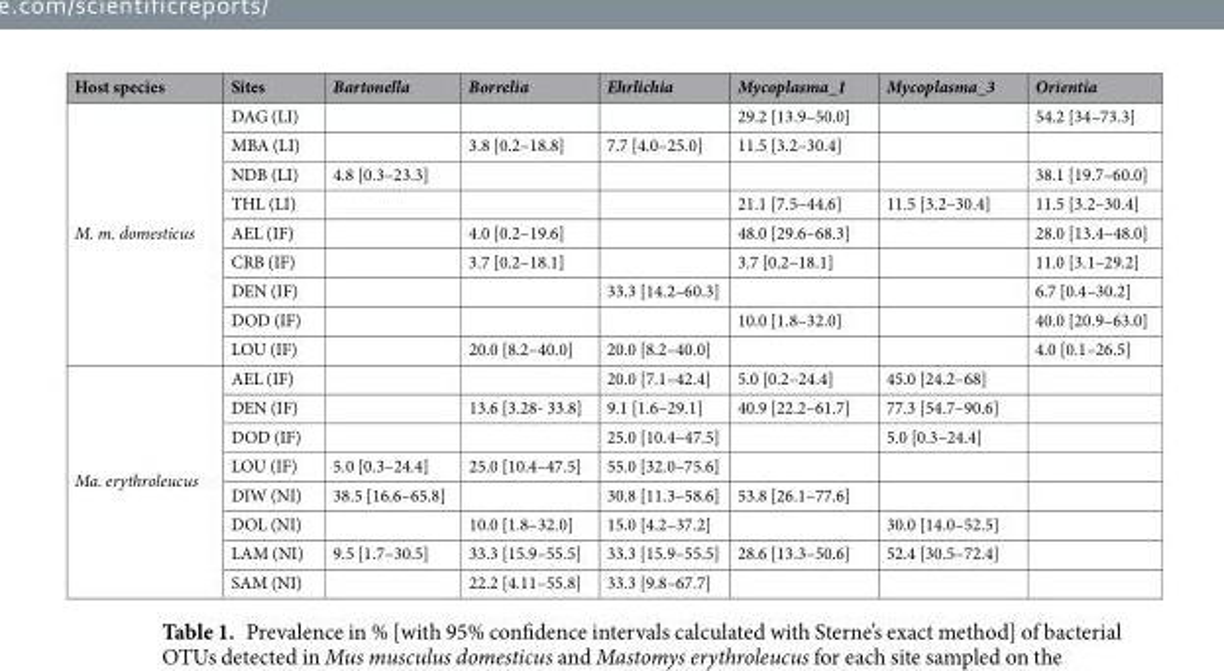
<table><thead><tr><td>Host species</td><td>Sites</td><td>Bartonella</td><td>Borrelia</td><td>Ehrlichia</td><td>Mycoplasma_1</td><td>Mycoplasma_3</td><td>Orientia</td></tr></thead><tbody><tr><td rowspan="9">M. m. domesticus</td><td>DAG (LI)</td><td></td><td></td><td></td><td>29.2 [13.9–50.0]</td><td></td><td>54.2 [34–73.3]</td></tr><tr><td>MBA (LI)</td><td></td><td>3.8 [0.2–18.8]</td><td>7.7 [4.0–25.0]</td><td>11.5 [3.2–30.4]</td><td></td><td></td></tr><tr><td>NDB (LI)</td><td>4.8 [0.3–23.3]</td><td></td><td></td><td></td><td></td><td>38.1 [19.7–60.0]</td></tr><tr><td>THL (LI)</td><td></td><td></td><td></td><td>21.1 [7.5–44.6]</td><td>11.5 [3.2–30.4]</td><td>11.5 [3.2–30.4]</td></tr><tr><td>AEL (IF)</td><td></td><td>4.0 [0.2–19.6]</td><td></td><td>48.0 [29.6–68.3]</td><td></td><td>28.0 [13.4–48.0]</td></tr><tr><td>CRB (IF)</td><td></td><td>3.7 [0.2–18.1]</td><td></td><td>3.7 [0.2–18.1]</td><td></td><td>11.0 [3.1–29.2]</td></tr><tr><td>DEN (IF)</td><td></td><td></td><td>33.3 [14.2–60.3]</td><td></td><td></td><td>6.7 [0.4–30.2]</td></tr><tr><td>DOD (IF)</td><td></td><td></td><td></td><td>10.0 [1.8–32.0]</td><td></td><td>40.0 [20.9–63.0]</td></tr><tr><td>LOU (IF)</td><td></td><td>20.0 [8.2–40.0]</td><td>20.0 [8.2–40.0]</td><td></td><td></td><td>4.0 [0.1–26.5]</td></tr><tr><td rowspan="8">Ma. erythroleucus</td><td>AEL (IF)</td><td></td><td></td><td>20.0 [7.1–42.4]</td><td>5.0 [0.2–24.4]</td><td>45.0 [24.2–68]</td><td></td></tr><tr><td>DEN (IF)</td><td></td><td>13.6 [3.28- 33.8]</td><td>9.1 [1.6–29.1]</td><td>40.9 [22.2–61.7]</td><td>77.3 [54.7–90.6]</td><td></td></tr><tr><td>DOD (IF)</td><td></td><td></td><td>25.0 [10.4–47.5]</td><td></td><td>5.0 [0.3–24.4]</td><td></td></tr><tr><td>LOU (IF)</td><td>5.0 [0.3–24.4]</td><td>25.0 [10.4–47.5]</td><td>55.0 [32.0–75.6]</td><td></td><td></td><td></td></tr><tr><td>DIW (NI)</td><td>38.5 [16.6–65.8]</td><td></td><td>30.8 [11.3–58.6]</td><td>53.8 [26.1–77.6]</td><td></td><td></td></tr><tr><td>DOL (NI)</td><td></td><td>10.0 [1.8–32.0]</td><td>15.0 [4.2–37.2]</td><td></td><td>30.0 [14.0–52.5]</td><td></td></tr><tr><td>LAM (NI)</td><td>9.5 [1.7–30.5]</td><td>33.3 [15.9–55.5]</td><td>33.3 [15.9–55.5]</td><td>28.6 [13.3–50.6]</td><td>52.4 [30.5–72.4]</td><td></td></tr><tr><td>SAM (NI)</td><td></td><td>22.2 [4.11–55.8]</td><td>33.3 [9.8–67.7]</td><td></td><td></td><td></td></tr></tbody></table>